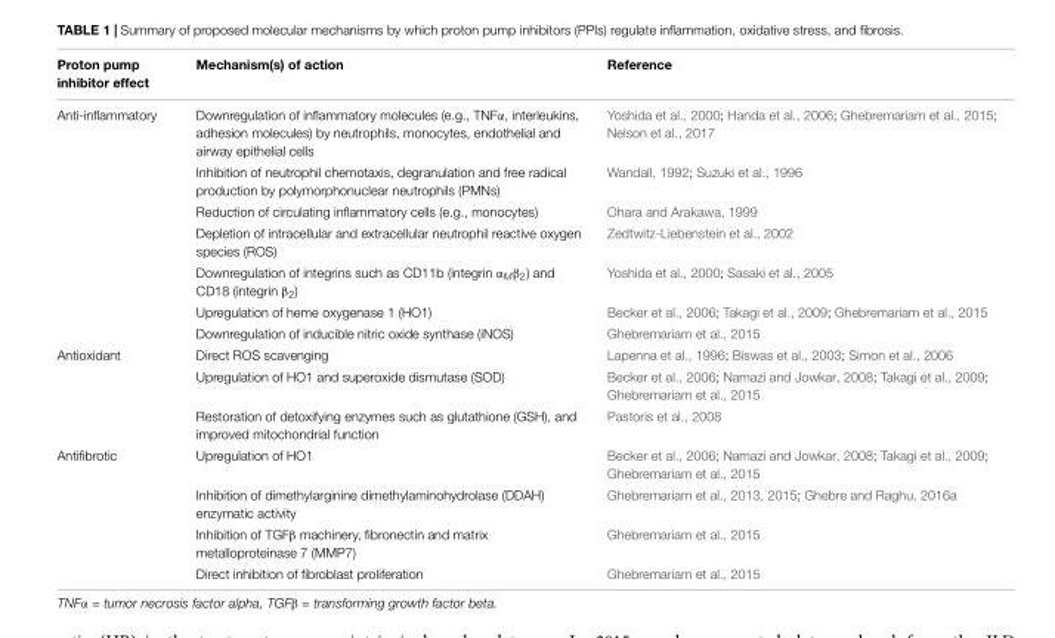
<table><thead><tr><td>Proton pump inhibitor effect</td><td>Mechanism(s) of action</td><td>Reference</td></tr></thead><tbody><tr><td rowspan="7">Anti-inflammatory</td><td>Downregulation of inflammatory molecules (e.g., TNFα, interleukins, adhesion molecules) by neutrophils, monocytes, endothelial and airway epithelial cells</td><td>Yoshida et al., 2000; Handa et al., 2006; Ghebremariam et al., 2015; Nelson et al., 2017</td></tr><tr><td>Inhibition of neutrophil chemotaxis, degranulation and free radical production by polymorphonuclear neutrophils (PMNs)</td><td>Wandall, 1992; Suzuki et al., 1996</td></tr><tr><td>Reduction of circulating inflammatory cells (e.g., monocytes)</td><td>Ohara and Arakawa, 1999</td></tr><tr><td>Depletion of intracellular and extracellular neutrophil reactive oxygen species (ROS)</td><td>Zedtwitz-Liebenstein et al., 2002</td></tr><tr><td>Downregulation of integrins such as CD11b (integrin α<sub>M</sub>β<sub>2</sub>) and CD18 (integrin β<sub>2</sub>)</td><td>Yoshida et al., 2000; Sasaki et al., 2005</td></tr><tr><td>Upregulation of heme oxygenase 1 (HO1)</td><td>Becker et al., 2006; Takagi et al., 2009; Ghebremariam et al., 2015</td></tr><tr><td>Downregulation of inducible nitric oxide synthase (iNOS)</td><td>Ghebremariam et al., 2015</td></tr><tr><td rowspan="3">Antioxidant</td><td>Direct ROS scavenging</td><td>Lapenna et al., 1996; Biswas et al., 2003; Simon et al., 2006</td></tr><tr><td>Upregulation of HO1 and superoxide dismutase (SOD)</td><td>Becker et al., 2006; Namazi and Jowkar, 2008; Takagi et al., 2009; Ghebremariam et al., 2015</td></tr><tr><td>Restoration of detoxifying enzymes such as glutathione (GSH), and improved mitochondrial function</td><td>Pastoris et al., 2008</td></tr><tr><td rowspan="4">Antifibrotic</td><td>Upregulation of HO1</td><td>Becker et al., 2006; Namazi and Jowkar, 2008; Takagi et al., 2009; Ghebremariam et al., 2015</td></tr><tr><td>Inhibition of dimethylarginine dimethylaminohydrolase (DDAH) enzymatic activity</td><td>Ghebremariam et al., 2013, 2015; Ghebre and Raghu, 2016a</td></tr><tr><td>Inhibition of TGFβ machinery, fibronectin and matrix metalloproteinase 7 (MMP7)</td><td>Ghebremariam et al., 2015</td></tr><tr><td>Direct inhibition of fibroblast proliferation</td><td>Ghebremariam et al., 2015</td></tr></tbody></table>